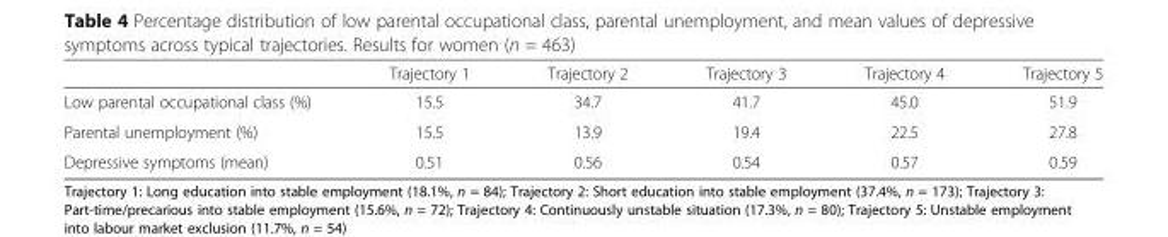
<table><thead><tr><td></td><td>Trajectory 1</td><td>Trajectory 2</td><td>Trajectory 3</td><td>Trajectory 4</td><td>Trajectory 5</td></tr></thead><tbody><tr><td>Low parental occupational class (%)</td><td>15.5</td><td>34.7</td><td>41.7</td><td>45.0</td><td>51.9</td></tr><tr><td>Parental unemployment (%)</td><td>15.5</td><td>13.9</td><td>19.4</td><td>22.5</td><td>27.8</td></tr><tr><td>Depressive symptoms (mean)</td><td>0.51</td><td>0.56</td><td>0.54</td><td>0.57</td><td>0.59</td></tr></tbody></table>